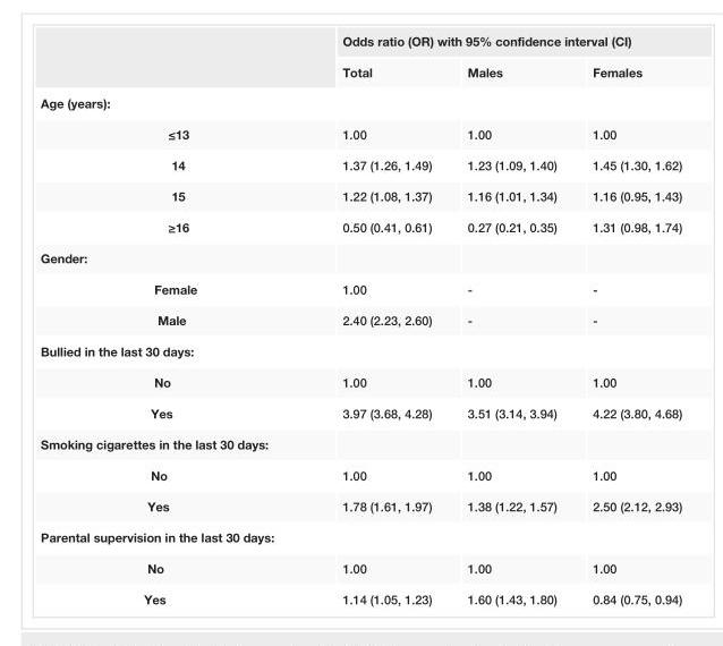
<table><thead><tr><td rowspan="2"></td><td colspan="3">Odds ratio (OR) with 95% confidence interval (CI)</td></tr><tr><td>Total</td><td>Males</td><td>Females</td></tr></thead><tbody><tr><td colspan="4">Age (years):</td></tr><tr><td>≤13</td><td>1.00</td><td>1.00</td><td>1.00</td></tr><tr><td>14</td><td>1.37 (1.26, 1.49)</td><td>1.23 (1.09, 1.40)</td><td>1.45 (1.30, 1.62)</td></tr><tr><td>15</td><td>1.22 (1.08, 1.37)</td><td>1.16 (1.01, 1.34)</td><td>1.16 (0.95, 1.43)</td></tr><tr><td>≥16</td><td>0.50 (0.41, 0.61)</td><td>0.27 (0.21, 0.35)</td><td>1.31 (0.98, 1.74)</td></tr><tr><td colspan="4">Gender:</td></tr><tr><td>Female</td><td>1.00</td><td>-</td><td>-</td></tr><tr><td>Male</td><td>2.40 (2.23, 2.60)</td><td>-</td><td>-</td></tr><tr><td colspan="4">Bullied in the last 30 days:</td></tr><tr><td>No</td><td>1.00</td><td>1.00</td><td>1.00</td></tr><tr><td>Yes</td><td>3.97 (3.68, 4.28)</td><td>3.51 (3.14, 3.94)</td><td>4.22 (3.80, 4.68)</td></tr><tr><td colspan="4">Smoking cigarettes in the last 30 days:</td></tr><tr><td>No</td><td>1.00</td><td>1.00</td><td>1.00</td></tr><tr><td>Yes</td><td>1.78 (1.61, 1.97)</td><td>1.38 (1.22, 1.57)</td><td>2.50 (2.12, 2.93)</td></tr><tr><td colspan="4">Parental supervision in the last 30 days:</td></tr><tr><td>No</td><td>1.00</td><td>1.00</td><td>1.00</td></tr><tr><td>Yes</td><td>1.14 (1.05, 1.23)</td><td>1.60 (1.43, 1.80)</td><td>0.84 (0.75, 0.94)</td></tr></tbody></table>